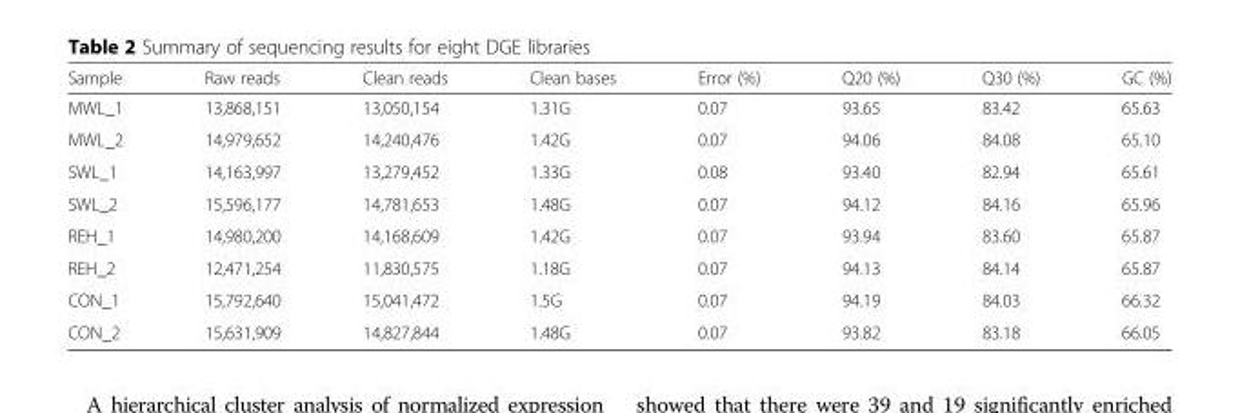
<table><thead><tr><td>Sample</td><td>Raw reads</td><td>Clean reads</td><td>Clean bases</td><td>Error (%)</td><td>Q20 (%)</td><td>Q30 (%)</td><td>GC (%)</td></tr></thead><tbody><tr><td>MWL_1</td><td>13,868,151</td><td>13,050,154</td><td>1.31G</td><td>0.07</td><td>93.65</td><td>83.42</td><td>65.63</td></tr><tr><td>MWL_2</td><td>14,979,652</td><td>14,240,476</td><td>1.42G</td><td>0.07</td><td>94.06</td><td>84.08</td><td>65.10</td></tr><tr><td>SWL_1</td><td>14,163,997</td><td>13,279,452</td><td>1.33G</td><td>0.08</td><td>93.40</td><td>82.94</td><td>65.61</td></tr><tr><td>SWL_2</td><td>15,596,177</td><td>14,781,653</td><td>1.48G</td><td>0.07</td><td>94.12</td><td>84.16</td><td>65.96</td></tr><tr><td>REH_1</td><td>14,980,200</td><td>14,168,609</td><td>1.42G</td><td>0.07</td><td>93.94</td><td>83.60</td><td>65.87</td></tr><tr><td>REH_2</td><td>12,471,254</td><td>11,830,575</td><td>1.18G</td><td>0.07</td><td>94.13</td><td>84.14</td><td>65.87</td></tr><tr><td>CON_1</td><td>15,792,640</td><td>15,041,472</td><td>1.5G</td><td>0.07</td><td>94.19</td><td>84.03</td><td>66.32</td></tr><tr><td>CON_2</td><td>15,631,909</td><td>14,827,844</td><td>1.48G</td><td>0.07</td><td>93.82</td><td>83.18</td><td>66.05</td></tr></tbody></table>